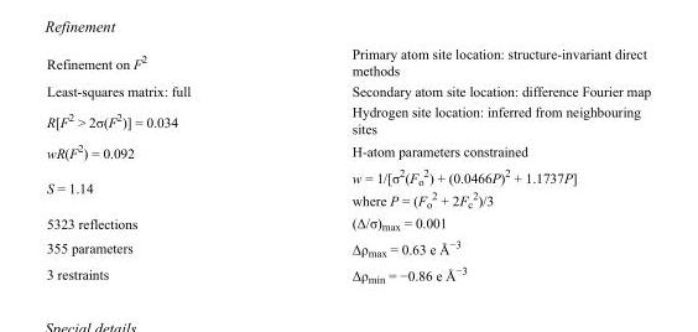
<table><tbody><tr><td>Refinement on F<sup>2</sup></td><td>Primary atom site location: structure-invariant direct methods</td></tr><tr><td>Least-squares matrix: full</td><td>Secondary atom site location: difference Fourier map</td></tr><tr><td>R[F<sup>2</sup> &gt; 2σ(F<sup>2</sup>)] = 0.034</td><td>Hydrogen site location: inferred from neighbouring sites</td></tr><tr><td>wR(F<sup>2</sup>) = 0.092</td><td>H-atom parameters constrained</td></tr><tr><td>S = 1.14</td><td>w = 1/[σ<sup>2</sup>(F<sub>o</sub> <sup>2</sup>) + (0.0466P)<sup>2</sup> + 1.1737P] where P = (F<sub>o</sub> <sup>2</sup> + 2F<sub>c</sub> <sup>2</sup>)/3</td></tr><tr><td>5323 reflections</td><td>(Δ/σ)<sub>max</sub> = 0.001</td></tr><tr><td>355 parameters</td><td>Δρ<sub>max</sub> = 0.63 e Å<sup>−3</sup></td></tr><tr><td>3 restraints</td><td>Δρ<sub>min</sub> = −0.86 e Å<sup>−3</sup></td></tr></tbody></table>